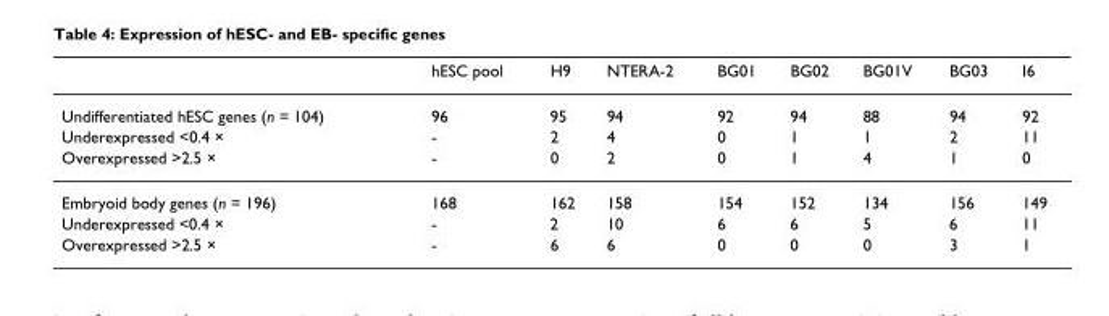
<table><thead><tr><td></td><td>hESC pool</td><td>H9</td><td>NTERA-2</td><td>BG01</td><td>BG02</td><td>BG01V</td><td>BG03</td><td>I6</td></tr></thead><tbody><tr><td>Undifferentiated hESC genes (n = 104)</td><td>96</td><td>95</td><td>94</td><td>92</td><td>94</td><td>88</td><td>94</td><td>92</td></tr><tr><td>Underexpressed &lt;0.4 ×</td><td>-</td><td>2</td><td>4</td><td>0</td><td>1</td><td>1</td><td>2</td><td>11</td></tr><tr><td>Overexpressed &gt;2.5 ×</td><td>-</td><td>0</td><td>2</td><td>0</td><td>1</td><td>4</td><td>1</td><td>0</td></tr><tr><td>Embryoid body genes (n = 196)</td><td>168</td><td>162</td><td>158</td><td>154</td><td>152</td><td>134</td><td>156</td><td>149</td></tr><tr><td>Underexpressed &lt;0.4 ×</td><td>-</td><td>2</td><td>10</td><td>6</td><td>6</td><td>5</td><td>6</td><td>11</td></tr><tr><td>Overexpressed &gt;2.5 ×</td><td>-</td><td>6</td><td>6</td><td>0</td><td>0</td><td>0</td><td>3</td><td>1</td></tr></tbody></table>